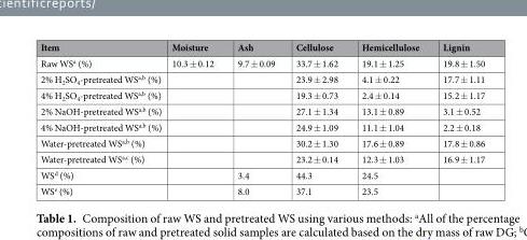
<table><thead><tr><td>Item</td><td>Moisture</td><td>Ash</td><td>Cellulose</td><td>Hemicellulose</td><td>Lignin</td></tr></thead><tbody><tr><td>Raw WS<sup>a</sup> (%)</td><td>10.3 ± 0.12</td><td>9.7 ± 0.09</td><td>33.7 ± 1.62</td><td>19.1 ± 1.25</td><td>19.8 ± 1.50</td></tr><tr><td>2% H<sub>2</sub>SO<sub>4</sub>-pretreated WS<sup>a,b</sup> (%)</td><td></td><td></td><td>23.9 ± 2.98</td><td>4.1 ± 0.22</td><td>17.7 ± 1.11</td></tr><tr><td>4% H<sub>2</sub>SO<sub>4</sub>-pretreated WS<sup>a,b</sup> (%)</td><td></td><td></td><td>19.3 ± 0.73</td><td>2.4 ± 0.14</td><td>15.2 ± 1.17</td></tr><tr><td>2% NaOH-pretreated WS<sup>a,b</sup> (%)</td><td></td><td></td><td>27.1 ± 1.34</td><td>13.1 ± 0.89</td><td>3.1 ± 0.52</td></tr><tr><td>4% NaOH-pretreated WS<sup>a,b</sup> (%)</td><td></td><td></td><td>24.9 ± 1.09</td><td>11.1 ± 1.04</td><td>2.2 ± 0.18</td></tr><tr><td>Water-pretreated WS<sup>a,b</sup> (%)</td><td></td><td></td><td>30.2 ± 1.30</td><td>17.6 ± 0.89</td><td>17.8 ± 0.86</td></tr><tr><td>Water-pretreated WS<sup>a,c</sup> (%)</td><td></td><td></td><td>23.2 ± 0.14</td><td>12.3 ± 1.03</td><td>16.9 ± 1.17</td></tr><tr><td>WS<sup>d</sup> (%)</td><td></td><td>3.4</td><td>44.3</td><td>24.5</td><td></td></tr><tr><td>WS<sup>e</sup> (%)</td><td></td><td>8.0</td><td>37.1</td><td>23.5</td><td></td></tr></tbody></table>